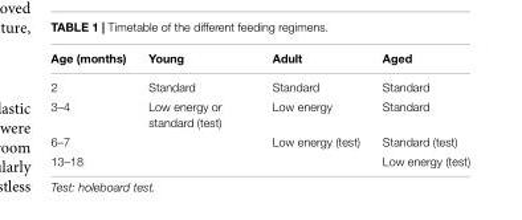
<table><thead><tr><td>Age (months)</td><td>Young</td><td>Adult</td><td>Aged</td></tr></thead><tbody><tr><td>2</td><td>Standard</td><td>Standard</td><td>Standard</td></tr><tr><td>3–4</td><td>Low energy or standard (test)</td><td>Low energy</td><td>Standard</td></tr><tr><td>6–7</td><td></td><td>Low energy (test)</td><td>Standard (test)</td></tr><tr><td>13–18</td><td></td><td></td><td>Low energy (test)</td></tr></tbody></table>